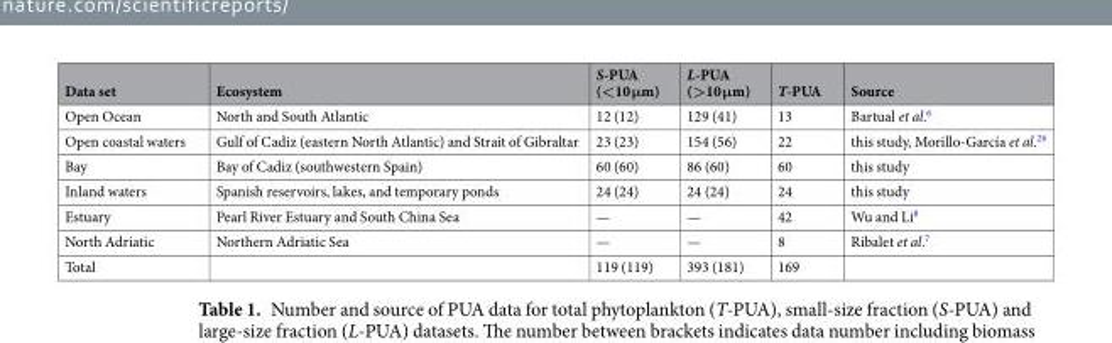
<table><thead><tr><td>Data set</td><td>Ecosystem</td><td>S-PUA (&lt;10 μm)</td><td>L-PUA (&gt;10 μm)</td><td>T-PUA</td><td>Source</td></tr></thead><tbody><tr><td>Open Ocean</td><td>North and South Atlantic</td><td>12 (12)</td><td>129 (41)</td><td>13</td><td>Bartual et al.<sup>6</sup></td></tr><tr><td>Open coastal waters</td><td>Gulf of Cadiz (eastern North Atlantic) and Strait of Gibraltar</td><td>23 (23)</td><td>154 (56)</td><td>22</td><td>this study, Morillo-García et al.<sup>26</sup></td></tr><tr><td>Bay</td><td>Bay of Cadiz (southwestern Spain)</td><td>60 (60)</td><td>86 (60)</td><td>60</td><td>this study</td></tr><tr><td>Inland waters</td><td>Spanish reservoirs, lakes, and temporary ponds</td><td>24 (24)</td><td>24 (24)</td><td>24</td><td>this study</td></tr><tr><td>Estuary</td><td>Pearl River Estuary and South China Sea</td><td>—</td><td>—</td><td>42</td><td>Wu and Li<sup>8</sup></td></tr><tr><td>North Adriatic</td><td>Northern Adriatic Sea</td><td>—</td><td>—</td><td>8</td><td>Ribalet et al.<sup>7</sup></td></tr><tr><td>Total</td><td></td><td>119 (119)</td><td>393 (181)</td><td>169</td><td></td></tr></tbody></table>